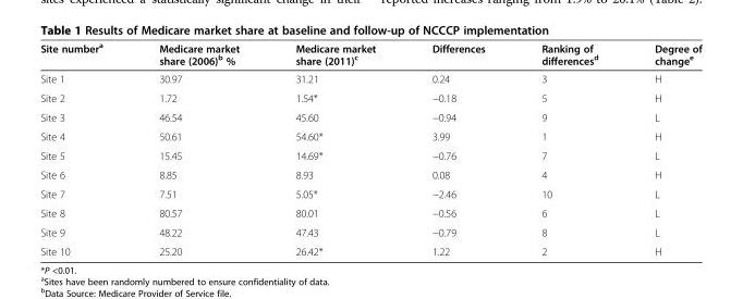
<table><thead><tr><td>Site number<sup>a</sup></td><td>Medicare market share (2006)<sup>b</sup> %</td><td>Medicare market share (2011)<sup>c</sup></td><td>Differences</td><td>Ranking of differences<sup>d</sup></td><td>Degree of change<sup>e</sup></td></tr></thead><tbody><tr><td>Site 1</td><td>30.97</td><td>31.21</td><td>0.24</td><td>3</td><td>H</td></tr><tr><td>Site 2</td><td>1.72</td><td>1.54*</td><td>−0.18</td><td>5</td><td>H</td></tr><tr><td>Site 3</td><td>46.54</td><td>45.60</td><td>−0.94</td><td>9</td><td>L</td></tr><tr><td>Site 4</td><td>50.61</td><td>54.60*</td><td>3.99</td><td>1</td><td>H</td></tr><tr><td>Site 5</td><td>15.45</td><td>14.69*</td><td>−0.76</td><td>7</td><td>L</td></tr><tr><td>Site 6</td><td>8.85</td><td>8.93</td><td>0.08</td><td>4</td><td>H</td></tr><tr><td>Site 7</td><td>7.51</td><td>5.05*</td><td>−2.46</td><td>10</td><td>L</td></tr><tr><td>Site 8</td><td>80.57</td><td>80.01</td><td>−0.56</td><td>6</td><td>L</td></tr><tr><td>Site 9</td><td>48.22</td><td>47.43</td><td>−0.79</td><td>8</td><td>L</td></tr><tr><td>Site 10</td><td>25.20</td><td>26.42*</td><td>1.22</td><td>2</td><td>H</td></tr></tbody></table>